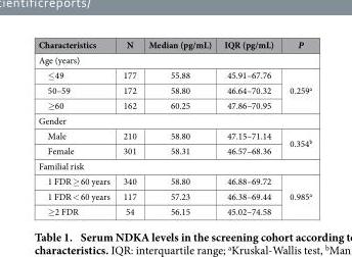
<table><thead><tr><td>Characteristics</td><td>N</td><td>Median (pg/mL)</td><td>IQR (pg/mL)</td><td>P</td></tr></thead><tbody><tr><td colspan="5">Age (years)</td></tr><tr><td>≤ 49</td><td>177</td><td>55.88</td><td>45.91–67.76</td><td rowspan="3">0.259<sup>a</sup></td></tr><tr><td>50–59</td><td>172</td><td>58.80</td><td>46.64–70.32</td></tr><tr><td>≥ 60</td><td>162</td><td>60.25</td><td>47.86–70.95</td></tr><tr><td colspan="5">Gender</td></tr><tr><td>Male</td><td>210</td><td>58.80</td><td>47.15–71.14</td><td rowspan="2">0.354<sup>b</sup></td></tr><tr><td>Female</td><td>301</td><td>58.31</td><td>46.57–68.36</td></tr><tr><td colspan="5">Familial risk</td></tr><tr><td>1 FDR ≥ 60 years</td><td>340</td><td>58.80</td><td>46.88–69.72</td><td rowspan="3">0.985<sup>a</sup></td></tr><tr><td>1 FDR &lt; 60 years</td><td>117</td><td>57.23</td><td>46.38–69.44</td></tr><tr><td>≥ 2 FDR</td><td>54</td><td>56.15</td><td>45.02–74.58</td></tr></tbody></table>